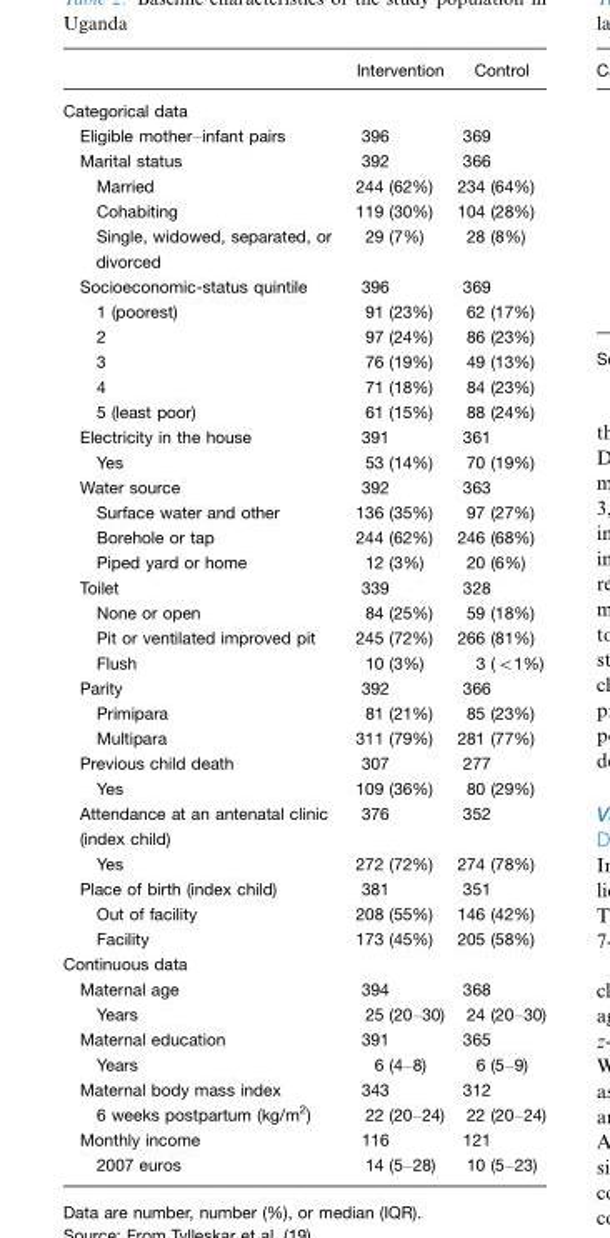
<table><thead><tr><td></td><td>Intervention</td><td>Control</td></tr></thead><tbody><tr><td colspan="3">Categorical data</td></tr><tr><td>Eligible mother–infant pairs</td><td>396</td><td>369</td></tr><tr><td>Marital status</td><td>392</td><td>366</td></tr><tr><td>Married</td><td>244 (62%)</td><td>234 (64%)</td></tr><tr><td>Cohabiting</td><td>119 (30%)</td><td>104 (28%)</td></tr><tr><td>Single, widowed, separated, or divorced</td><td>29 (7%)</td><td>28 (8%)</td></tr><tr><td>Socioeconomic-status quintile</td><td>396</td><td>369</td></tr><tr><td>1 (poorest)</td><td>91 (23%)</td><td>62 (17%)</td></tr><tr><td>2</td><td>97 (24%)</td><td>86 (23%)</td></tr><tr><td>3</td><td>76 (19%)</td><td>49 (13%)</td></tr><tr><td>4</td><td>71 (18%)</td><td>84 (23%)</td></tr><tr><td>5 (least poor)</td><td>61 (15%)</td><td>88 (24%)</td></tr><tr><td>Electricity in the house</td><td>391</td><td>361</td></tr><tr><td>Yes</td><td>53 (14%)</td><td>70 (19%)</td></tr><tr><td>Water source</td><td>392</td><td>363</td></tr><tr><td>Surface water and other</td><td>136 (35%)</td><td>97 (27%)</td></tr><tr><td>Borehole or tap</td><td>244 (62%)</td><td>246 (68%)</td></tr><tr><td>Piped yard or home</td><td>12 (3%)</td><td>20 (6%)</td></tr><tr><td>Toilet</td><td>339</td><td>328</td></tr><tr><td>None or open</td><td>84 (25%)</td><td>59 (18%)</td></tr><tr><td>Pit or ventilated improved pit</td><td>245 (72%)</td><td>266 (81%)</td></tr><tr><td>Flush</td><td>10 (3%)</td><td>3 (&lt;1%)</td></tr><tr><td>Parity</td><td>392</td><td>366</td></tr><tr><td>Primipara</td><td>81 (21%)</td><td>85 (23%)</td></tr><tr><td>Multipara</td><td>311 (79%)</td><td>281 (77%)</td></tr><tr><td>Previous child death</td><td>307</td><td>277</td></tr><tr><td>Yes</td><td>109 (36%)</td><td>80 (29%)</td></tr><tr><td>Attendance at an antenatal clinic (index child)</td><td>376</td><td>352</td></tr><tr><td>Yes</td><td>272 (72%)</td><td>274 (78%)</td></tr><tr><td>Place of birth (index child)</td><td>381</td><td>351</td></tr><tr><td>Out of facility</td><td>208 (55%)</td><td>146 (42%)</td></tr><tr><td>Facility</td><td>173 (45%)</td><td>205 (58%)</td></tr><tr><td colspan="3">Continuous data</td></tr><tr><td>Maternal age</td><td>394</td><td>368</td></tr><tr><td>Years</td><td>25 (20–30)</td><td>24 (20–30)</td></tr><tr><td>Maternal education</td><td>391</td><td>365</td></tr><tr><td>Years</td><td>6 (4–8)</td><td>6 (5–9)</td></tr><tr><td>Maternal body mass index</td><td>343</td><td>312</td></tr><tr><td>6 weeks postpartum (kg/m<sup>2</sup>)</td><td>22 (20–24)</td><td>22 (20–24)</td></tr><tr><td>Monthly income</td><td>116</td><td>121</td></tr><tr><td>2007 euros</td><td>14 (5–28)</td><td>10 (5–23)</td></tr></tbody></table>